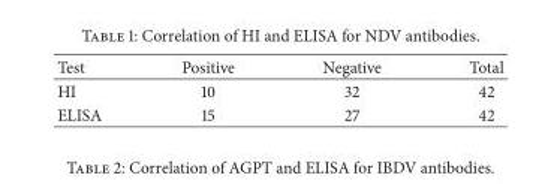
<table><thead><tr><td>Test</td><td>Positive</td><td>Negative</td><td>Total</td></tr></thead><tbody><tr><td>HI</td><td>10</td><td>32</td><td>42</td></tr><tr><td>ELISA</td><td>15</td><td>27</td><td>42</td></tr></tbody></table>